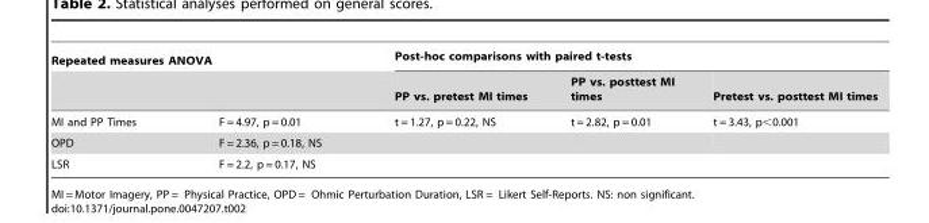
<table><thead><tr><td colspan="2">Repeated measures ANOVA</td><td colspan="3">Post-hoc comparisons with paired t-tests</td></tr><tr><td></td><td></td><td>PP vs. pretest MI times</td><td>PP vs. posttest MI times</td><td>Pretest vs. posttest MI times</td></tr></thead><tbody><tr><td>MI and PP Times</td><td>F = 4.97, p = 0.01</td><td>t = 1.27, p = 0.22, NS</td><td>t = 2.82, p = 0.01</td><td>t = 3.43, p&lt;0.001</td></tr><tr><td>OPD</td><td>F = 2.36, p = 0.18, NS</td><td></td><td></td><td></td></tr><tr><td>LSR</td><td>F = 2.2, p = 0.17, NS</td><td></td><td></td><td></td></tr></tbody></table>